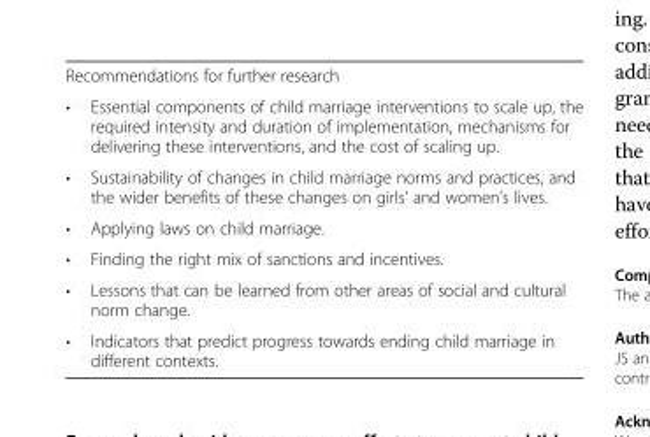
<table><tbody><tr><td colspan="2">Recommendations for further research</td></tr><tr><td>•</td><td>Essential components of child marriage interventions to scale up, the required intensity and duration of implementation, mechanisms for delivering these interventions, and the cost of scaling up.</td></tr><tr><td>•</td><td>Sustainability of changes in child marriage norms and practices, and the wider benefits of these changes on girls’ and women’s lives.</td></tr><tr><td>•</td><td>Applying laws on child marriage.</td></tr><tr><td>•</td><td>Finding the right mix of sanctions and incentives.</td></tr><tr><td>•</td><td>Lessons that can be learned from other areas of social and cultural norm change.</td></tr><tr><td>•</td><td>Indicators that predict progress towards ending child marriage in different contexts.</td></tr></tbody></table>